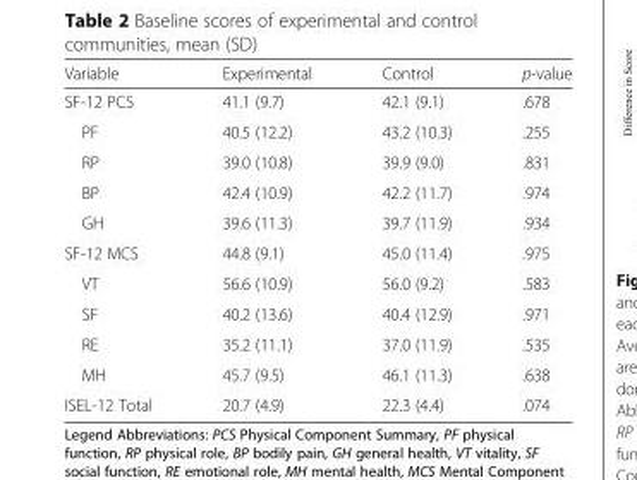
<table><thead><tr><td>Variable</td><td>Experimental</td><td>Control</td><td>p-value</td></tr></thead><tbody><tr><td>SF-12 PCS</td><td>41.1 (9.7)</td><td>42.1 (9.1)</td><td>.678</td></tr><tr><td>PF</td><td>40.5 (12.2)</td><td>43.2 (10.3)</td><td>.255</td></tr><tr><td>RP</td><td>39.0 (10.8)</td><td>39.9 (9.0)</td><td>.831</td></tr><tr><td>BP</td><td>42.4 (10.9)</td><td>42.2 (11.7)</td><td>.974</td></tr><tr><td>GH</td><td>39.6 (11.3)</td><td>39.7 (11.9)</td><td>.934</td></tr><tr><td>SF-12 MCS</td><td>44.8 (9.1)</td><td>45.0 (11.4)</td><td>.975</td></tr><tr><td>VT</td><td>56.6 (10.9)</td><td>56.0 (9.2)</td><td>.583</td></tr><tr><td>SF</td><td>40.2 (13.6)</td><td>40.4 (12.9)</td><td>.971</td></tr><tr><td>RE</td><td>35.2 (11.1)</td><td>37.0 (11.9)</td><td>.535</td></tr><tr><td>MH</td><td>45.7 (9.5)</td><td>46.1 (11.3)</td><td>.638</td></tr><tr><td>ISEL-12 Total</td><td>20.7 (4.9)</td><td>22.3 (4.4)</td><td>.074</td></tr></tbody></table>